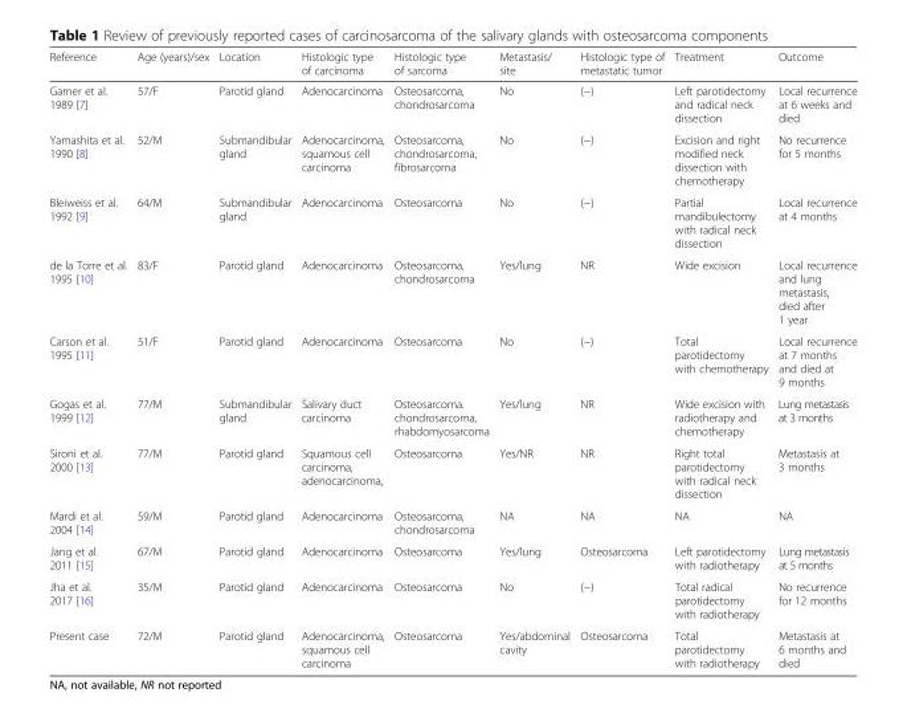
<table><thead><tr><td>Reference</td><td>Age (years)/sex</td><td>Location</td><td>Histologic type of carcinoma</td><td>Histologic type of sarcoma</td><td>Metastasis/ site</td><td>Histologic type of metastatic tumor</td><td>Treatment</td><td>Outcome</td></tr></thead><tbody><tr><td>Garner et al. 1989 [7]</td><td>57/F</td><td>Parotid gland</td><td>Adenocarcinoma</td><td>Osteosarcoma, chondrosarcoma</td><td>No</td><td>(−)</td><td>Left parotidectomy and radical neck dissection</td><td>Local recurrence at 6 weeks and died</td></tr><tr><td>Yamashita et al. 1990 [8]</td><td>52/M</td><td>Submandibular gland</td><td>Adenocarcinoma, squamous cell carcinoma</td><td>Osteosarcoma, chondrosarcoma, fibrosarcoma</td><td>No</td><td>(−)</td><td>Excision and right modified neck dissection with chemotherapy</td><td>No recurrence for 5 months</td></tr><tr><td>Bleiweiss et al. 1992 [9]</td><td>64/M</td><td>Submandibular gland</td><td>Adenocarcinoma</td><td>Osteosarcoma</td><td>No</td><td>(−)</td><td>Partial mandibulectomy with radical neck dissection</td><td>Local recurrence at 4 months</td></tr><tr><td>de la Torre et al. 1995 [10]</td><td>83/F</td><td>Parotid gland</td><td>Adenocarcinoma</td><td>Osteosarcoma, chondrosarcoma</td><td>Yes/lung</td><td>NR</td><td>Wide excision</td><td>Local recurrence and lung metastasis, died after 1 year</td></tr><tr><td>Carson et al. 1995 [11]</td><td>51/F</td><td>Parotid gland</td><td>Adenocarcinoma</td><td>Osteosarcoma</td><td>No</td><td>(−)</td><td>Total parotidectomy with chemotherapy</td><td>Local recurrence at 7 months and died at 9 months</td></tr><tr><td>Gogas et al. 1999 [12]</td><td>77/M</td><td>Submandibular gland</td><td>Salivary duct carcinoma</td><td>Osteosarcoma. chondrosarcoma, rhabdomyosarcoma</td><td>Yes/lung</td><td>NR</td><td>Wide excision with radiotherapy and chemotherapy</td><td>Lung metastasis at 3 months</td></tr><tr><td>Sironi et al. 2000 [13]</td><td>77/M</td><td>Parotid gland</td><td>Squamous cell carcinoma, adenocarcinoma,</td><td>Osteosarcoma</td><td>Yes/NR</td><td>NR</td><td>Right total parotidectomy with radical neck dissection</td><td>Metastasis at 3 months</td></tr><tr><td>Mardi et al. 2004 [14]</td><td>59/M</td><td>Parotid gland</td><td>Adenocarcinoma</td><td>Osteosarcoma, chondrosarcoma</td><td>NA</td><td>NA</td><td>NA</td><td>NA</td></tr><tr><td>Jang et al. 2011 [15]</td><td>67/M</td><td>Parotid gland</td><td>Adenocarcinoma</td><td>Osteosarcoma</td><td>Yes/lung</td><td>Osteosarcoma</td><td>Left parotidectomy with radiotherapy</td><td>Lung metastasis at 5 months</td></tr><tr><td>Jha et al. 2017 [16]</td><td>35/M</td><td>Parotid gland</td><td>Adenocarcinoma</td><td>Osteosarcoma</td><td>No</td><td>(−)</td><td>Total radical parotidectomy with radiotherapy</td><td>No recurrence for 12 months</td></tr><tr><td>Present case</td><td>72/M</td><td>Parotid gland</td><td>Adenocarcinoma, squamous cell carcinoma</td><td>Osteosarcoma</td><td>Yes/abdominal cavity</td><td>Osteosarcoma</td><td>Total parotidectomy with radiotherapy</td><td>Metastasis at 6 months and died</td></tr></tbody></table>